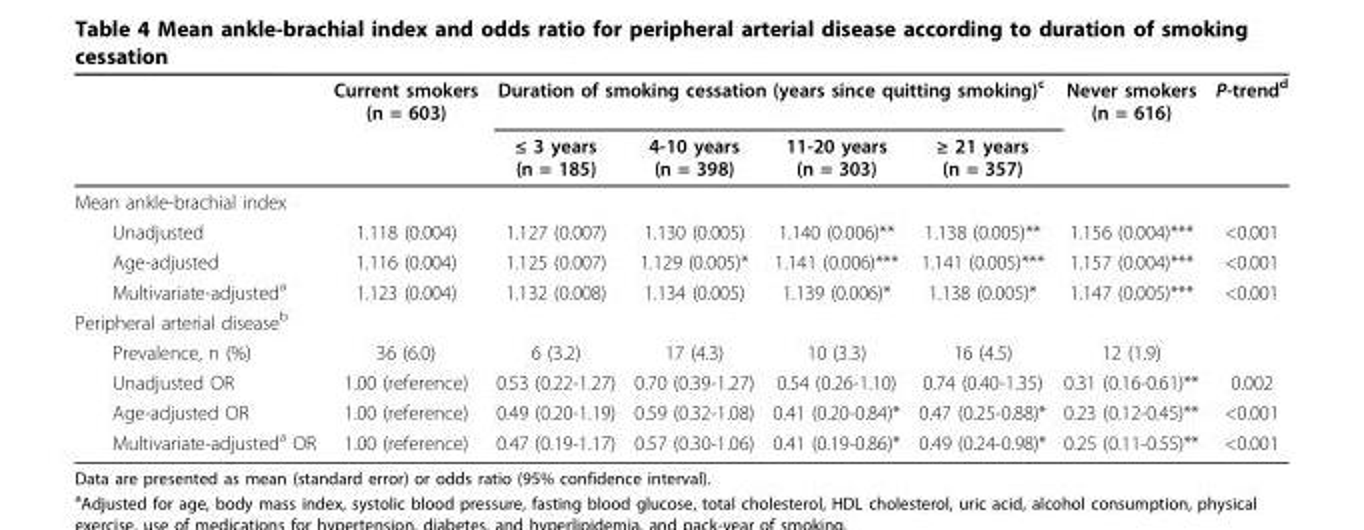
<table><thead><tr><td rowspan="2"></td><td rowspan="2">Current smokers (n = 603)</td><td colspan="4">Duration of smoking cessation (years since quitting smoking)<sup>c</sup></td><td rowspan="2">Never smokers (n = 616)</td><td rowspan="2">P-trend<sup>d</sup></td></tr><tr><td>≤ 3 years (n = 185)</td><td>4-10 years (n = 398)</td><td>11-20 years (n = 303)</td><td>≥ 21 years (n = 357)</td></tr></thead><tbody><tr><td colspan="8">Mean ankle-brachial index</td></tr><tr><td>Unadjusted</td><td>1.118 (0.004)</td><td>1.127 (0.007)</td><td>1.130 (0.005)</td><td>1.140 (0.006)**</td><td>1.138 (0.005)**</td><td>1.156 (0.004)***</td><td>&lt;0.001</td></tr><tr><td>Age-adjusted</td><td>1.116 (0.004)</td><td>1.125 (0.007)</td><td>1.129 (0.005)*</td><td>1.141 (0.006)***</td><td>1.141 (0.005)***</td><td>1.157 (0.004)***</td><td>&lt;0.001</td></tr><tr><td>Multivariate-adjusted<sup>a</sup></td><td>1.123 (0.004)</td><td>1.132 (0.008)</td><td>1.134 (0.005)</td><td>1.139 (0.006)*</td><td>1.138 (0.005)*</td><td>1.147 (0.005)***</td><td>&lt;0.001</td></tr><tr><td colspan="8">Peripheral arterial disease<sup>b</sup></td></tr><tr><td>Prevalence, n (%)</td><td>36 (6.0)</td><td>6 (3.2)</td><td>17 (4.3)</td><td>10 (3.3)</td><td>16 (4.5)</td><td>12 (1.9)</td><td></td></tr><tr><td>Unadjusted OR</td><td>1.00 (reference)</td><td>0.53 (0.22-1.27)</td><td>0.70 (0.39-1.27)</td><td>0.54 (0.26-1.10)</td><td>0.74 (0.40-1.35)</td><td>0.31 (0.16-0.61)**</td><td>0.002</td></tr><tr><td>Age-adjusted OR</td><td>1.00 (reference)</td><td>0.49 (0.20-1.19)</td><td>0.59 (0.32-1.08)</td><td>0.41 (0.20-0.84)*</td><td>0.47 (0.25-0.88)*</td><td>0.23 (0.12-0.45)**</td><td>&lt;0.001</td></tr><tr><td>Multivariate-adjusted<sup>a</sup> OR</td><td>1.00 (reference)</td><td>0.47 (0.19-1.17)</td><td>0.57 (0.30-1.06)</td><td>0.41 (0.19-0.86)*</td><td>0.49 (0.24-0.98)*</td><td>0.25 (0.11-0.55)**</td><td>&lt;0.001</td></tr></tbody></table>